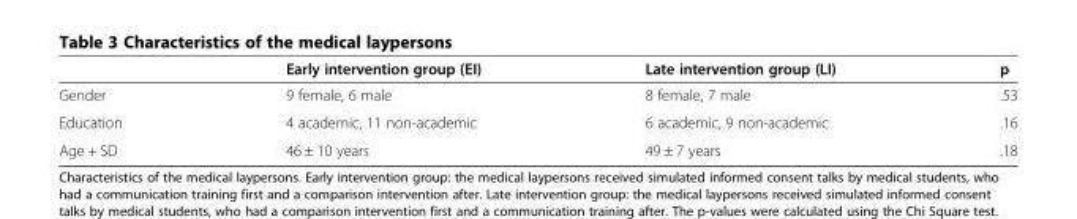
<table><thead><tr><td></td><td>Early intervention group (EI)</td><td>Late intervention group (LI)</td><td>p</td></tr></thead><tbody><tr><td>Gender</td><td>9 female, 6 male</td><td>8 female, 7 male</td><td>.53</td></tr><tr><td>Education</td><td>4 academic, 11 non-academic</td><td>6 academic, 9 non-academic</td><td>.16</td></tr><tr><td>Age + SD</td><td>46 ± 10 years</td><td>49 ± 7 years</td><td>.18</td></tr></tbody></table>